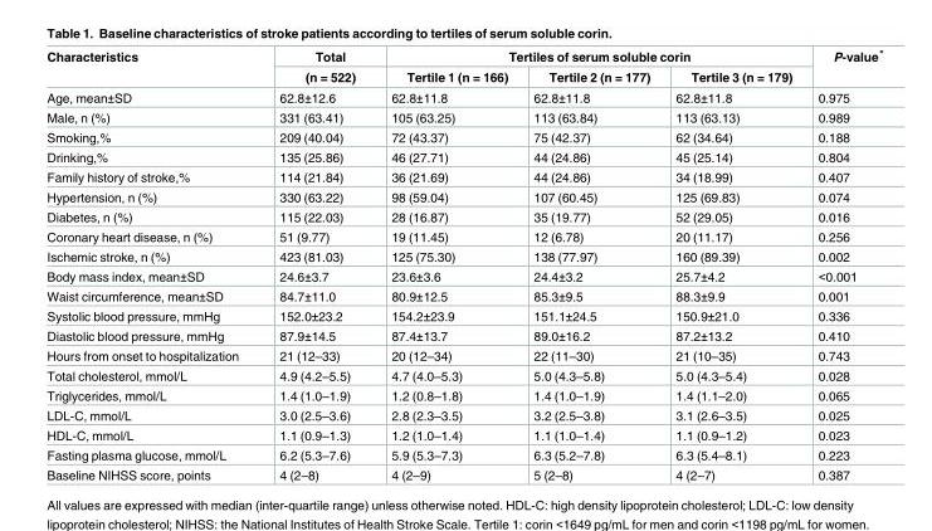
<table><thead><tr><td rowspan="2">Characteristics</td><td rowspan="2">Total (n = 522)</td><td colspan="3">Tertiles of serum soluble corin</td><td rowspan="2">P-value*</td></tr><tr><td>Tertile 1 (n = 166)</td><td>Tertile 2 (n = 177)</td><td>Tertile 3 (n = 179)</td></tr></thead><tbody><tr><td>Age, mean±SD</td><td>62.8±12.6</td><td>62.8±11.8</td><td>62.8±11.8</td><td>62.8±11.8</td><td>0.975</td></tr><tr><td>Male, n (%)</td><td>331 (63.41)</td><td>105 (63.25)</td><td>113 (63.84)</td><td>113 (63.13)</td><td>0.989</td></tr><tr><td>Smoking,%</td><td>209 (40.04)</td><td>72 (43.37)</td><td>75 (42.37)</td><td>62 (34.64)</td><td>0.188</td></tr><tr><td>Drinking,%</td><td>135 (25.86)</td><td>46 (27.71)</td><td>44 (24.86)</td><td>45 (25.14)</td><td>0.804</td></tr><tr><td>Family history of stroke,%</td><td>114 (21.84)</td><td>36 (21.69)</td><td>44 (24.86)</td><td>34 (18.99)</td><td>0.407</td></tr><tr><td>Hypertension, n (%)</td><td>330 (63.22)</td><td>98 (59.04)</td><td>107 (60.45)</td><td>125 (69.83)</td><td>0.074</td></tr><tr><td>Diabetes, n (%)</td><td>115 (22.03)</td><td>28 (16.87)</td><td>35 (19.77)</td><td>52 (29.05)</td><td>0.016</td></tr><tr><td>Coronary heart disease, n (%)</td><td>51 (9.77)</td><td>19 (11.45)</td><td>12 (6.78)</td><td>20 (11.17)</td><td>0.256</td></tr><tr><td>Ischemic stroke, n (%)</td><td>423 (81.03)</td><td>125 (75.30)</td><td>138 (77.97)</td><td>160 (89.39)</td><td>0.002</td></tr><tr><td>Body mass index, mean±SD</td><td>24.6±3.7</td><td>23.6±3.6</td><td>24.4±3.2</td><td>25.7±4.2</td><td>&lt;0.001</td></tr><tr><td>Waist circumference, mean±SD</td><td>84.7±11.0</td><td>80.9±12.5</td><td>85.3±9.5</td><td>88.3±9.9</td><td>0.001</td></tr><tr><td>Systolic blood pressure, mmHg</td><td>152.0±23.2</td><td>154.2±23.9</td><td>151.1±24.5</td><td>150.9±21.0</td><td>0.336</td></tr><tr><td>Diastolic blood pressure, mmHg</td><td>87.9±14.5</td><td>87.4±13.7</td><td>89.0±16.2</td><td>87.2±13.2</td><td>0.410</td></tr><tr><td>Hours from onset to hospitalization</td><td>21 (12–33)</td><td>20 (12–34)</td><td>22 (11–30)</td><td>21 (10–35)</td><td>0.743</td></tr><tr><td>Total cholesterol, mmol/L</td><td>4.9 (4.2–5.5)</td><td>4.7 (4.0–5.3)</td><td>5.0 (4.3–5.8)</td><td>5.0 (4.3–5.4)</td><td>0.028</td></tr><tr><td>Triglycerides, mmol/L</td><td>1.4 (1.0–1.9)</td><td>1.2 (0.8–1.8)</td><td>1.4 (1.0–1.9)</td><td>1.4 (1.1–2.0)</td><td>0.065</td></tr><tr><td>LDL-C, mmol/L</td><td>3.0 (2.5–3.6)</td><td>2.8 (2.3–3.5)</td><td>3.2 (2.5–3.8)</td><td>3.1 (2.6–3.5)</td><td>0.025</td></tr><tr><td>HDL-C, mmol/L</td><td>1.1 (0.9–1.3)</td><td>1.2 (1.0–1.4)</td><td>1.1 (1.0–1.4)</td><td>1.1 (0.9–1.2)</td><td>0.023</td></tr><tr><td>Fasting plasma glucose, mmol/L</td><td>6.2 (5.3–7.6)</td><td>5.9 (5.3–7.3)</td><td>6.3 (5.2–7.8)</td><td>6.3 (5.4–8.1)</td><td>0.223</td></tr><tr><td>Baseline NIHSS score, points</td><td>4 (2–8)</td><td>4 (2–9)</td><td>5 (2–8)</td><td>4 (2–7)</td><td>0.387</td></tr></tbody></table>